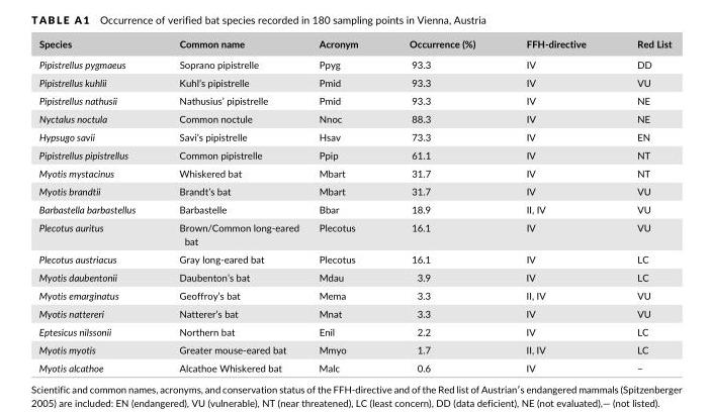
<table><thead><tr><td>Species</td><td>Common name</td><td>Acronym</td><td>Occurrence (%)</td><td>FFH- directive</td><td>Red List</td></tr></thead><tbody><tr><td>Pipistrellus pygmaeus</td><td>Soprano pipistrelle</td><td>Ppyg</td><td>93.3</td><td>IV</td><td>DD</td></tr><tr><td>Pipistrellus kuhlii</td><td>Kuhl’s pipistrelle</td><td>Pmid</td><td>93.3</td><td>IV</td><td>VU</td></tr><tr><td>Pipistrellus nathusii</td><td>Nathusius’ pipistrelle</td><td>Pmid</td><td>93.3</td><td>IV</td><td>NE</td></tr><tr><td>Nyctalus noctula</td><td>Common noctule</td><td>Nnoc</td><td>88.3</td><td>IV</td><td>NE</td></tr><tr><td>Hypsugo savii</td><td>Savi’s pipistrelle</td><td>Hsav</td><td>73.3</td><td>IV</td><td>EN</td></tr><tr><td>Pipistrellus pipistrellus</td><td>Common pipistrelle</td><td>Ppip</td><td>61.1</td><td>IV</td><td>NT</td></tr><tr><td>Myotis mystacinus</td><td>Whiskered bat</td><td>Mbart</td><td>31.7</td><td>IV</td><td>NT</td></tr><tr><td>Myotis brandtii</td><td>Brandt’s bat</td><td>Mbart</td><td>31.7</td><td>IV</td><td>VU</td></tr><tr><td>Barbastella barbastellus</td><td>Barbastelle</td><td>Bbar</td><td>18.9</td><td>II, IV</td><td>VU</td></tr><tr><td>Plecotus auritus</td><td>Brown/Common long- eared bat</td><td>Plecotus</td><td>16.1</td><td>IV</td><td>VU</td></tr><tr><td>Plecotus austriacus</td><td>Gray long- eared bat</td><td>Plecotus</td><td>16.1</td><td>IV</td><td>LC</td></tr><tr><td>Myotis daubentonii</td><td>Daubenton’s bat</td><td>Mdau</td><td>3.9</td><td>IV</td><td>LC</td></tr><tr><td>Myotis emarginatus</td><td>Geoffroy’s bat</td><td>Mema</td><td>3.3</td><td>II, IV</td><td>VU</td></tr><tr><td>Myotis nattereri</td><td>Natterer’s bat</td><td>Mnat</td><td>3.3</td><td>IV</td><td>VU</td></tr><tr><td>Eptesicus nilssonii</td><td>Northern bat</td><td>Enil</td><td>2.2</td><td>IV</td><td>LC</td></tr><tr><td>Myotis myotis</td><td>Greater mouse- eared bat</td><td>Mmyo</td><td>1.7</td><td>II, IV</td><td>LC</td></tr><tr><td>Myotis alcathoe</td><td>Alcathoe Whiskered bat</td><td>Malc</td><td>0.6</td><td>IV</td><td>–</td></tr></tbody></table>